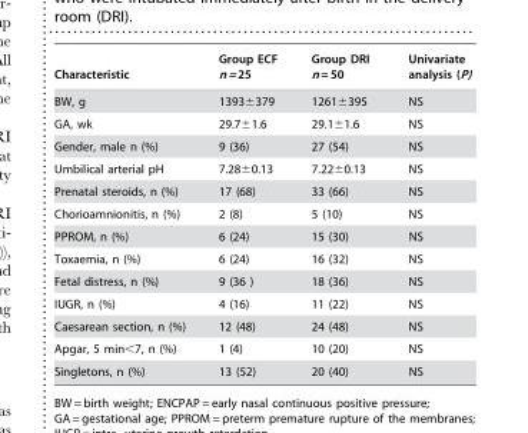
<table><thead><tr><td>Characteristic</td><td>Group ECF n = 25</td><td>Group DRI n = 50</td><td>Univariate analysis (P)</td></tr></thead><tbody><tr><td>BW, g</td><td>1393±379</td><td>1261±395</td><td>NS</td></tr><tr><td>GA, wk</td><td>29.7±1.6</td><td>29.1±1.6</td><td>NS</td></tr><tr><td>Gender, male n (%)</td><td>9 (36)</td><td>27 (54)</td><td>NS</td></tr><tr><td>Umbilical arterial pH</td><td>7.28±0.13</td><td>7.22±0.13</td><td>NS</td></tr><tr><td>Prenatal steroids, n (%)</td><td>17 (68)</td><td>33 (66)</td><td>NS</td></tr><tr><td>Chorioamnionitis, n (%)</td><td>2 (8)</td><td>5 (10)</td><td>NS</td></tr><tr><td>PPROM, n (%)</td><td>6 (24)</td><td>15 (30)</td><td>NS</td></tr><tr><td>Toxaemia, n (%)</td><td>6 (24)</td><td>16 (32)</td><td>NS</td></tr><tr><td>Fetal distress, n (%)</td><td>9 (36 )</td><td>18 (36)</td><td>NS</td></tr><tr><td>IUGR, n (%)</td><td>4 (16)</td><td>11 (22)</td><td>NS</td></tr><tr><td>Caesarean section, n (%)</td><td>12 (48)</td><td>24 (48)</td><td>NS</td></tr><tr><td>Apgar, 5 min&lt;7, n (%)</td><td>1 (4)</td><td>10 (20)</td><td>NS</td></tr><tr><td>Singletons, n (%)</td><td>13 (52)</td><td>20 (40)</td><td>NS</td></tr></tbody></table>